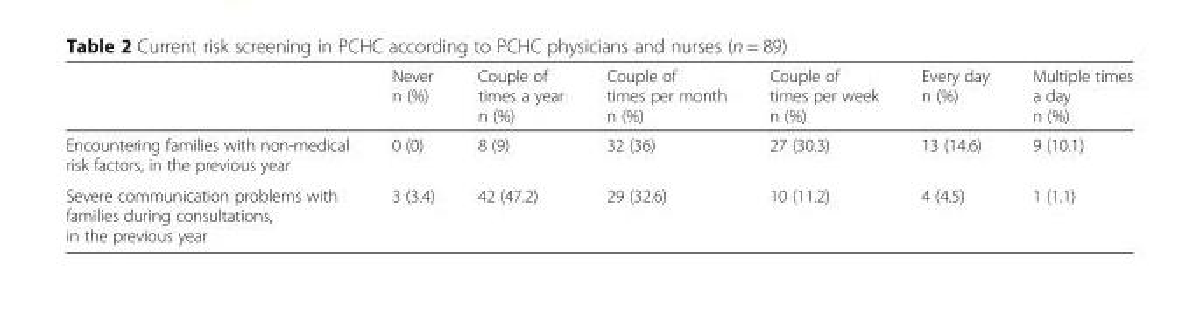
<table><thead><tr><td></td><td>Never n (%)</td><td>Couple of times a year n (%)</td><td>Couple of times per month n (%)</td><td>Couple of times per week n (%)</td><td>Every day n (%)</td><td>Multiple times a day n (%)</td></tr></thead><tbody><tr><td>Encountering families with non-medical risk factors, in the previous year</td><td>0 (0)</td><td>8 (9)</td><td>32 (36)</td><td>27 (30.3)</td><td>13 (14.6)</td><td>9 (10.1)</td></tr><tr><td>Severe communication problems with families during consultations, in the previous year</td><td>3 (3.4)</td><td>42 (47.2)</td><td>29 (32.6)</td><td>10 (11.2)</td><td>4 (4.5)</td><td>1 (1.1)</td></tr></tbody></table>